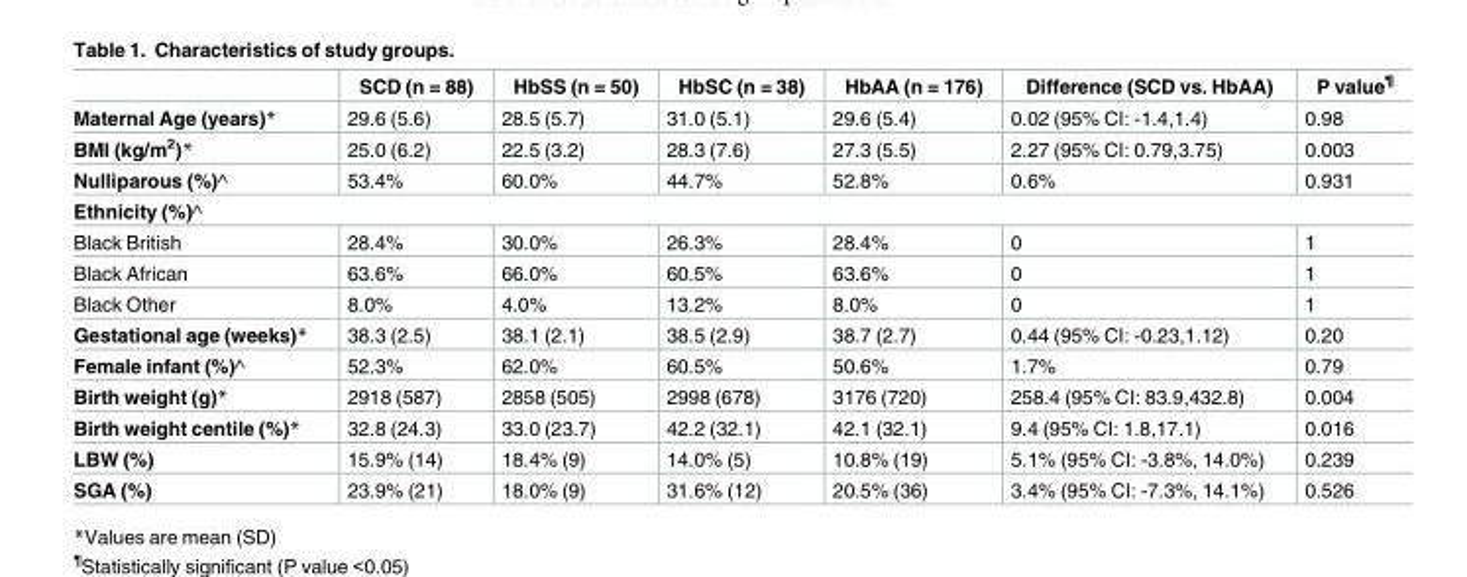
<table><thead><tr><td></td><td>SCD (n = 88)</td><td>HbSS (n = 50)</td><td>HbSC (n = 38)</td><td>HbAA (n = 176)</td><td>Difference (SCD vs. HbAA)</td><td>P value<sup>¶</sup></td></tr></thead><tbody><tr><td>Maternal Age (years)*</td><td>29.6 (5.6)</td><td>28.5 (5.7)</td><td>31.0 (5.1)</td><td>29.6 (5.4)</td><td>0.02 (95% CI: -1.4,1.4)</td><td>0.98</td></tr><tr><td>BMI (kg/m<sup>2</sup>)*</td><td>25.0 (6.2)</td><td>22.5 (3.2)</td><td>28.3 (7.6)</td><td>27.3 (5.5)</td><td>2.27 (95% CI: 0.79,3.75)</td><td>0.003</td></tr><tr><td>Nulliparous (%)^</td><td>53.4%</td><td>60.0%</td><td>44.7%</td><td>52.8%</td><td>0.6%</td><td>0.931</td></tr><tr><td colspan="7">Ethnicity (%)^</td></tr><tr><td>Black British</td><td>28.4%</td><td>30.0%</td><td>26.3%</td><td>28.4%</td><td>0</td><td>1</td></tr><tr><td>Black African</td><td>63.6%</td><td>66.0%</td><td>60.5%</td><td>63.6%</td><td>0</td><td>1</td></tr><tr><td>Black Other</td><td>8.0%</td><td>4.0%</td><td>13.2%</td><td>8.0%</td><td>0</td><td>1</td></tr><tr><td>Gestational age (weeks)*</td><td>38.3 (2.5)</td><td>38.1 (2.1)</td><td>38.5 (2.9)</td><td>38.7 (2.7)</td><td>0.44 (95% CI: -0.23,1.12)</td><td>0.20</td></tr><tr><td>Female infant (%)^</td><td>52.3%</td><td>62.0%</td><td>60.5%</td><td>50.6%</td><td>1.7%</td><td>0.79</td></tr><tr><td>Birth weight (g)*</td><td>2918 (587)</td><td>2858 (505)</td><td>2998 (678)</td><td>3176 (720)</td><td>258.4 (95% CI: 83.9,432.8)</td><td>0.004</td></tr><tr><td>Birth weight centile (%)*</td><td>32.8 (24.3)</td><td>33.0 (23.7)</td><td>42.2 (32.1)</td><td>42.1 (32.1)</td><td>9.4 (95% CI: 1.8,17.1)</td><td>0.016</td></tr><tr><td>LBW (%)</td><td>15.9% (14)</td><td>18.4% (9)</td><td>14.0% (5)</td><td>10.8% (19)</td><td>5.1% (95% CI: -3.8%, 14.0%)</td><td>0.239</td></tr><tr><td>SGA (%)</td><td>23.9% (21)</td><td>18.0% (9)</td><td>31.6% (12)</td><td>20.5% (36)</td><td>3.4% (95% CI: -7.3%, 14.1%)</td><td>0.526</td></tr></tbody></table>